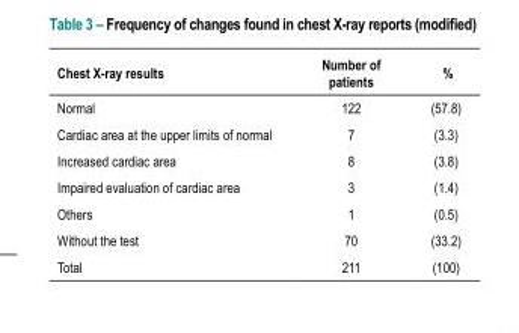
<table><thead><tr><td>Chest X-ray results</td><td>Number of patients</td><td>%</td></tr></thead><tbody><tr><td>Normal</td><td>122</td><td>(57.8)</td></tr><tr><td>Cardiac area at the upper limits of normal</td><td>7</td><td>(3.3)</td></tr><tr><td>Increased cardiac area</td><td>8</td><td>(3.8)</td></tr><tr><td>Impaired evaluation of cardiac area</td><td>3</td><td>(1.4)</td></tr><tr><td>Others</td><td>1</td><td>(0.5)</td></tr><tr><td>Without the test</td><td>70</td><td>(33.2)</td></tr><tr><td>Total</td><td>211</td><td>(100)</td></tr></tbody></table>